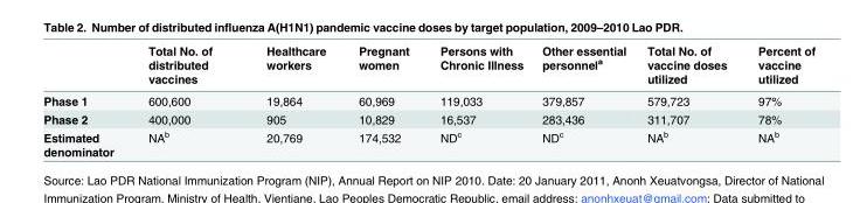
<table><thead><tr><td></td><td>Total No. of distributed vaccines</td><td>Healthcare workers</td><td>Pregnant women</td><td>Persons with Chronic Illness</td><td>Other essential personnel<sup>a</sup></td><td>Total No. of vaccine doses utilized</td><td>Percent of vaccine utilized</td></tr></thead><tbody><tr><td>Phase 1</td><td>600,600</td><td>19,864</td><td>60,969</td><td>119,033</td><td>379,857</td><td>579,723</td><td>97%</td></tr><tr><td>Phase 2</td><td>400,000</td><td>905</td><td>10,829</td><td>16,537</td><td>283,436</td><td>311,707</td><td>78%</td></tr><tr><td>Estimated denominator</td><td>NA<sup>b</sup></td><td>20,769</td><td>174,532</td><td>ND<sup>c</sup></td><td>ND<sup>c</sup></td><td>NA<sup>b</sup></td><td>NA<sup>b</sup></td></tr></tbody></table>